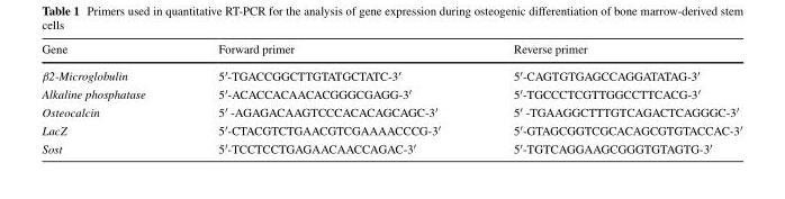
<table><thead><tr><td>Gene</td><td>Forward primer</td><td>Reverse primer</td></tr></thead><tbody><tr><td>β2‑Microglobulin</td><td>5′-TGACCGGCTTGTATGCTATC-3′</td><td>5′-CAGTGTGAGCCAGGATATAG-3′</td></tr><tr><td>Alkaline phosphatase</td><td>5′-ACACCACAACACGGGCGAGG-3′</td><td>5′-TGCCCTCGTTGGCCTTCACG-3′</td></tr><tr><td>Osteocalcin</td><td>5′ -AGAGACAAGTCCCACACAGCAGC-3′</td><td>5′ -TGAAGGCTTTGTCAGACTCAGGGC-3′</td></tr><tr><td>LacZ</td><td>5′-CTACGTCTGAACGTCGAAAACCCG-3′</td><td>5′-GTAGCGGTCGCACAGCGTGTACCAC-3′</td></tr><tr><td>Sost</td><td>5′-TCCTCCTGAGAACAACCAGAC-3′</td><td>5′-TGTCAGGAAGCGGGTGTAGTG-3′</td></tr></tbody></table>